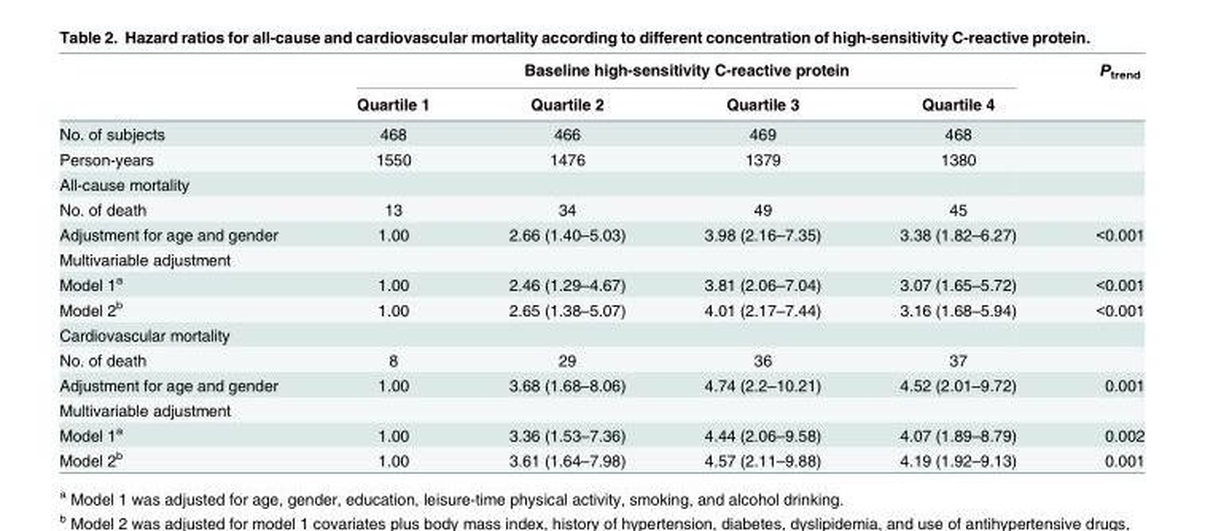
<table><thead><tr><td rowspan="2"></td><td colspan="4">Baseline high-sensitivity C-reactive protein</td><td rowspan="2">P<sub>trend</sub></td></tr><tr><td>Quartile 1</td><td>Quartile 2</td><td>Quartile 3</td><td>Quartile 4</td></tr></thead><tbody><tr><td>No. of subjects</td><td>468</td><td>466</td><td>469</td><td>468</td><td></td></tr><tr><td>Person-years</td><td>1550</td><td>1476</td><td>1379</td><td>1380</td><td></td></tr><tr><td colspan="6">All-cause mortality</td></tr><tr><td>No. of death</td><td>13</td><td>34</td><td>49</td><td>45</td><td></td></tr><tr><td>Adjustment for age and gender</td><td>1.00</td><td>2.66 (1.40–5.03)</td><td>3.98 (2.16–7.35)</td><td>3.38 (1.82–6.27)</td><td>&lt;0.001</td></tr><tr><td colspan="6">Multivariable adjustment</td></tr><tr><td>Model 1<sup>a</sup></td><td>1.00</td><td>2.46 (1.29–4.67)</td><td>3.81 (2.06–7.04)</td><td>3.07 (1.65–5.72)</td><td>&lt;0.001</td></tr><tr><td>Model 2<sup>b</sup></td><td>1.00</td><td>2.65 (1.38–5.07)</td><td>4.01 (2.17–7.44)</td><td>3.16 (1.68–5.94)</td><td>&lt;0.001</td></tr><tr><td colspan="6">Cardiovascular mortality</td></tr><tr><td>No. of death</td><td>8</td><td>29</td><td>36</td><td>37</td><td></td></tr><tr><td>Adjustment for age and gender</td><td>1.00</td><td>3.68 (1.68–8.06)</td><td>4.74 (2.2–10.21)</td><td>4.52 (2.01–9.72)</td><td>0.001</td></tr><tr><td colspan="6">Multivariable adjustment</td></tr><tr><td>Model 1<sup>a</sup></td><td>1.00</td><td>3.36 (1.53–7.36)</td><td>4.44 (2.06–9.58)</td><td>4.07 (1.89–8.79)</td><td>0.002</td></tr><tr><td>Model 2<sup>b</sup></td><td>1.00</td><td>3.61 (1.64–7.98)</td><td>4.57 (2.11–9.88)</td><td>4.19 (1.92–9.13)</td><td>0.001</td></tr></tbody></table>